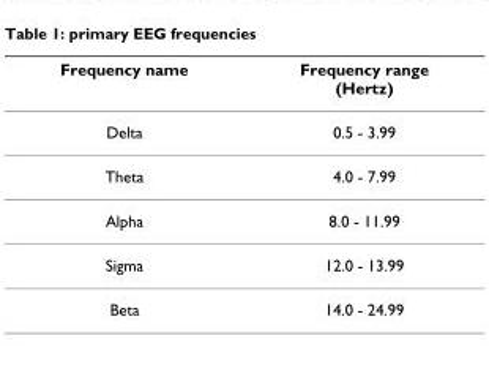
<table><thead><tr><td>Frequency name</td><td>Frequency range (Hertz)</td></tr></thead><tbody><tr><td>Delta</td><td>0.5 - 3.99</td></tr><tr><td>Theta</td><td>4.0 - 7.99</td></tr><tr><td>Alpha</td><td>8.0 - 11.99</td></tr><tr><td>Sigma</td><td>12.0 - 13.99</td></tr><tr><td>Beta</td><td>14.0 - 24.99</td></tr></tbody></table>